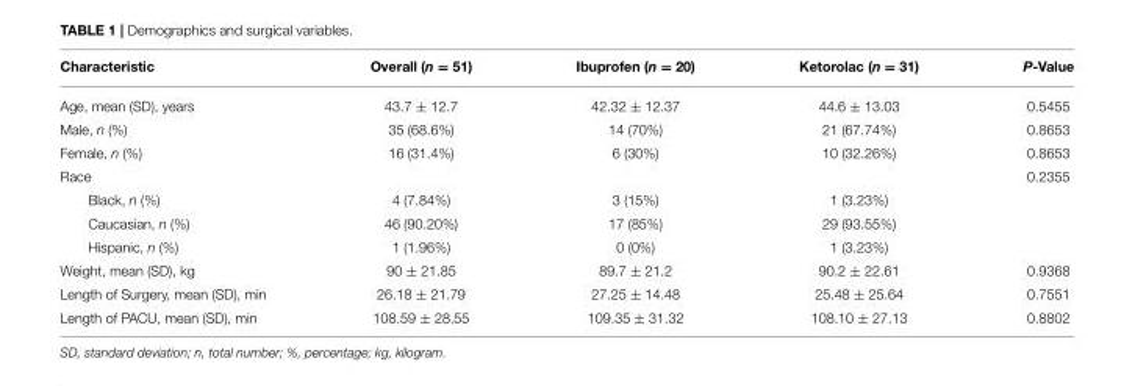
<table><thead><tr><td>Characteristic</td><td>Overall (n = 51)</td><td>Ibuprofen (n = 20)</td><td>Ketorolac (n = 31)</td><td>P-Value</td></tr></thead><tbody><tr><td>Age, mean (SD), years</td><td>43.7 ± 12.7</td><td>42.32 ± 12.37</td><td>44.6 ± 13.03</td><td>0.5455</td></tr><tr><td>Male, n (%)</td><td>35 (68.6%)</td><td>14 (70%)</td><td>21 (67.74%)</td><td>0.8653</td></tr><tr><td>Female, n (%)</td><td>16 (31.4%)</td><td>6 (30%)</td><td>10 (32.26%)</td><td>0.8653</td></tr><tr><td>Race</td><td></td><td></td><td></td><td>0.2355</td></tr><tr><td>Black, n (%)</td><td>4 (7.84%)</td><td>3 (15%)</td><td>1 (3.23%)</td><td></td></tr><tr><td>Caucasian, n (%)</td><td>46 (90.20%)</td><td>17 (85%)</td><td>29 (93.55%)</td><td></td></tr><tr><td>Hispanic, n (%)</td><td>1 (1.96%)</td><td>0 (0%)</td><td>1 (3.23%)</td><td></td></tr><tr><td>Weight, mean (SD), kg</td><td>90 ± 21.85</td><td>89.7 ± 21.2</td><td>90.2 ± 22.61</td><td>0.9368</td></tr><tr><td>Length of Surgery, mean (SD), min</td><td>26.18 ± 21.79</td><td>27.25 ± 14.48</td><td>25.48 ± 25.64</td><td>0.7551</td></tr><tr><td>Length of PACU, mean (SD), min</td><td>108.59 ± 28.55</td><td>109.35 ± 31.32</td><td>108.10 ± 27.13</td><td>0.8802</td></tr></tbody></table>